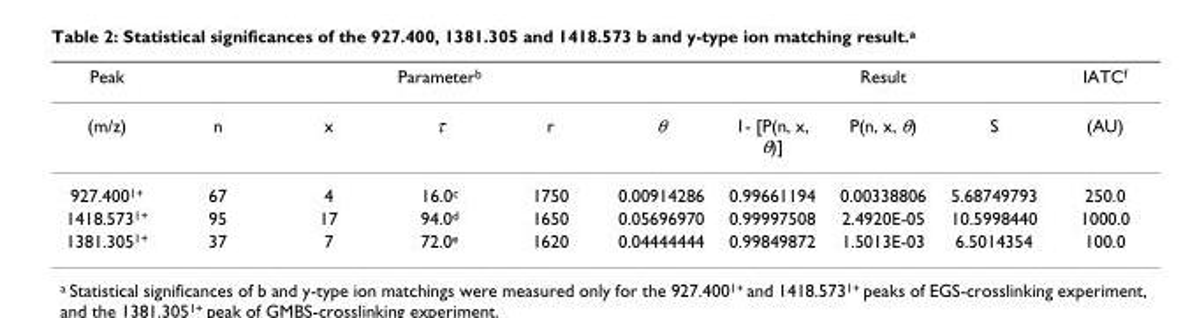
<table><thead><tr><td rowspan="2">Peak (m/z)</td><td colspan="5">Parameterb</td><td colspan="3">Result</td><td rowspan="2">IATCf (AU)</td></tr><tr><td>n</td><td>x</td><td>τ</td><td>r</td><td>θ</td><td>1- [P(n, x, θ)]</td><td>P(n, x, θ)</td><td>S</td></tr></thead><tbody><tr><td>927.4001+</td><td>67</td><td>4</td><td>16.0c</td><td>1750</td><td>0.00914286</td><td>0.99661194</td><td>0.00338806</td><td>5.68749793</td><td>250.0</td></tr><tr><td>1418.5731+</td><td>95</td><td>17</td><td>94.0d</td><td>1650</td><td>0.05696970</td><td>0.99997508</td><td>2.4920E-05</td><td>10.5998440</td><td>1000.0</td></tr><tr><td>1381.3051+</td><td>37</td><td>7</td><td>72.0e</td><td>1620</td><td>0.04444444</td><td>0.99849872</td><td>1.5013E-03</td><td>6.5014354</td><td>100.0</td></tr></tbody></table>